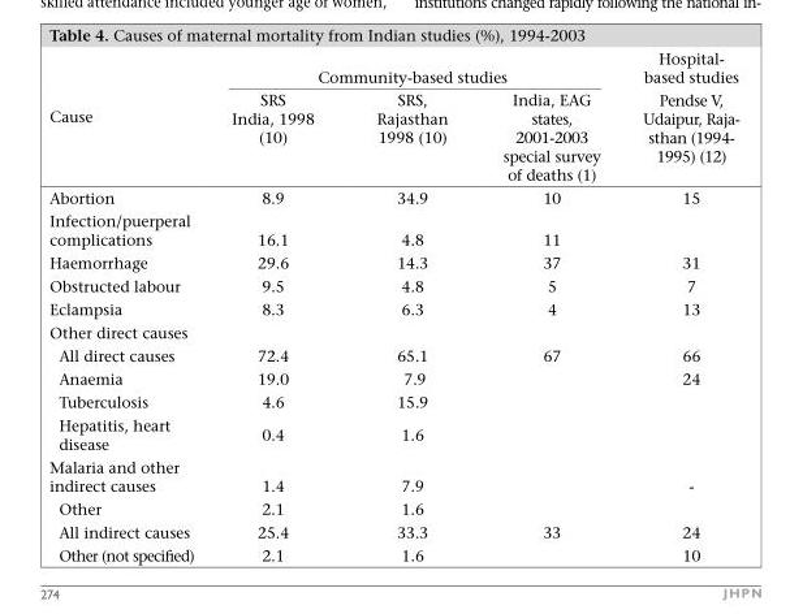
<table><thead><tr><td rowspan="2">Cause</td><td colspan="3">Community-based studies</td><td rowspan="2">Hospital- based studies Pendse V, Udaipur, Raja- sthan (1994- 1995) (12)</td></tr><tr><td>SRS India, 1998 (10)</td><td>SRS, Rajasthan 1998 (10)</td><td>India, EAG states, 2001-2003 special survey of deaths (1)</td></tr></thead><tbody><tr><td>Abortion</td><td>8.9</td><td>34.9</td><td>10</td><td>15</td></tr><tr><td>Infection/puerperal complications</td><td>16.1</td><td>4.8</td><td>11</td><td></td></tr><tr><td>Haemorrhage</td><td>29.6</td><td>14.3</td><td>37</td><td>31</td></tr><tr><td>Obstructed labour</td><td>9.5</td><td>4.8</td><td>5</td><td>7</td></tr><tr><td>Eclampsia</td><td>8.3</td><td>6.3</td><td>4</td><td>13</td></tr><tr><td colspan="5">Other direct causes</td></tr><tr><td>All direct causes</td><td>72.4</td><td>65.1</td><td>67</td><td>66</td></tr><tr><td>Anaemia</td><td>19.0</td><td>7.9</td><td></td><td>24</td></tr><tr><td>Tuberculosis</td><td>4.6</td><td>15.9</td><td></td><td></td></tr><tr><td>Hepatitis, heart disease</td><td>0.4</td><td>1.6</td><td></td><td></td></tr><tr><td>Malaria and other indirect causes</td><td>1.4</td><td>7.9</td><td></td><td>-</td></tr><tr><td>Other</td><td>2.1</td><td>1.6</td><td></td><td></td></tr><tr><td>All indirect causes</td><td>25.4</td><td>33.3</td><td>33</td><td>24</td></tr><tr><td>Other (not specified)</td><td>2.1</td><td>1.6</td><td></td><td>10</td></tr></tbody></table>